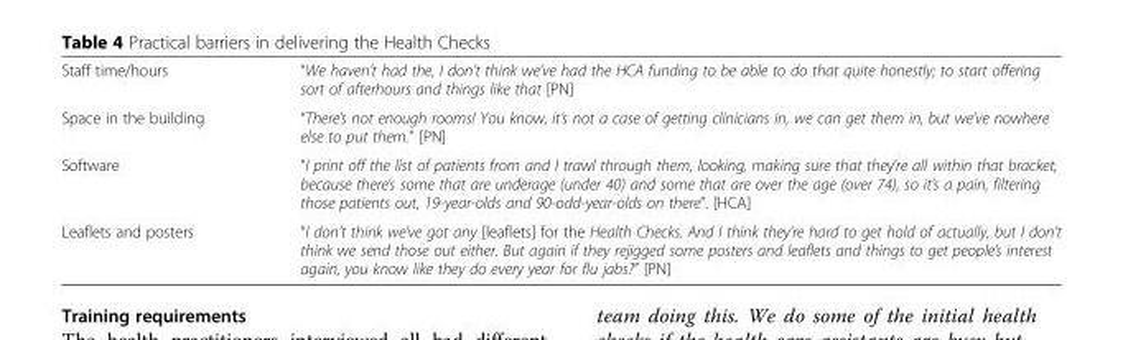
<table><tbody><tr><td>Staff time/hours</td><td>“We haven’t had the, I don’t think we’ve had the HCA funding to be able to do that quite honestly; to start offering sort of afterhours and things like that [PN]</td></tr><tr><td>Space in the building</td><td>“There’s not enough rooms! You know, it’s not a case of getting clinicians in, we can get them in, but we’ve nowhere else to put them.” [PN]</td></tr><tr><td>Software</td><td>“I print off the list of patients from and I trawl through them, looking, making sure that they’re all within that bracket, because there’s some that are underage (under 40) and some that are over the age (over 74), so it’s a pain, filtering those patients out, 19-year-olds and 90-odd-year-olds on there”. [HCA]</td></tr><tr><td>Leaflets and posters</td><td>“I don’t think we’ve got any [leaflets] for the Health Checks. And I think they’re hard to get hold of actually, but I don’t think we send those out either. But again if they rejigged some posters and leaflets and things to get people’s interest again, you know like they do every year for flu jabs?” [PN]</td></tr></tbody></table>